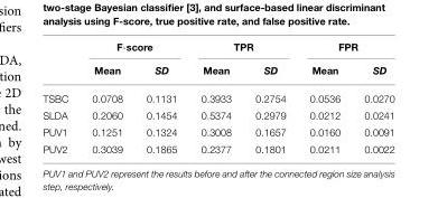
<table><thead><tr><td rowspan="2"></td><td colspan="2">F-score</td><td colspan="2">TPR</td><td colspan="2">FPR</td></tr><tr><td>Mean</td><td>SD</td><td>Mean</td><td>SD</td><td>Mean</td><td>SD</td></tr></thead><tbody><tr><td>TSBC</td><td>0.0708</td><td>0.1131</td><td>0.3933</td><td>0.2754</td><td>0.0536</td><td>0.0270</td></tr><tr><td>SLDA</td><td>0.2060</td><td>0.1454</td><td>0.5374</td><td>0.2979</td><td>0.0212</td><td>0.0241</td></tr><tr><td>PUV1</td><td>0.1251</td><td>0.1324</td><td>0.3008</td><td>0.1657</td><td>0.0160</td><td>0.0091</td></tr><tr><td>PUV2</td><td>0.3039</td><td>0.1865</td><td>0.2377</td><td>0.1801</td><td>0.0211</td><td>0.0022</td></tr></tbody></table>